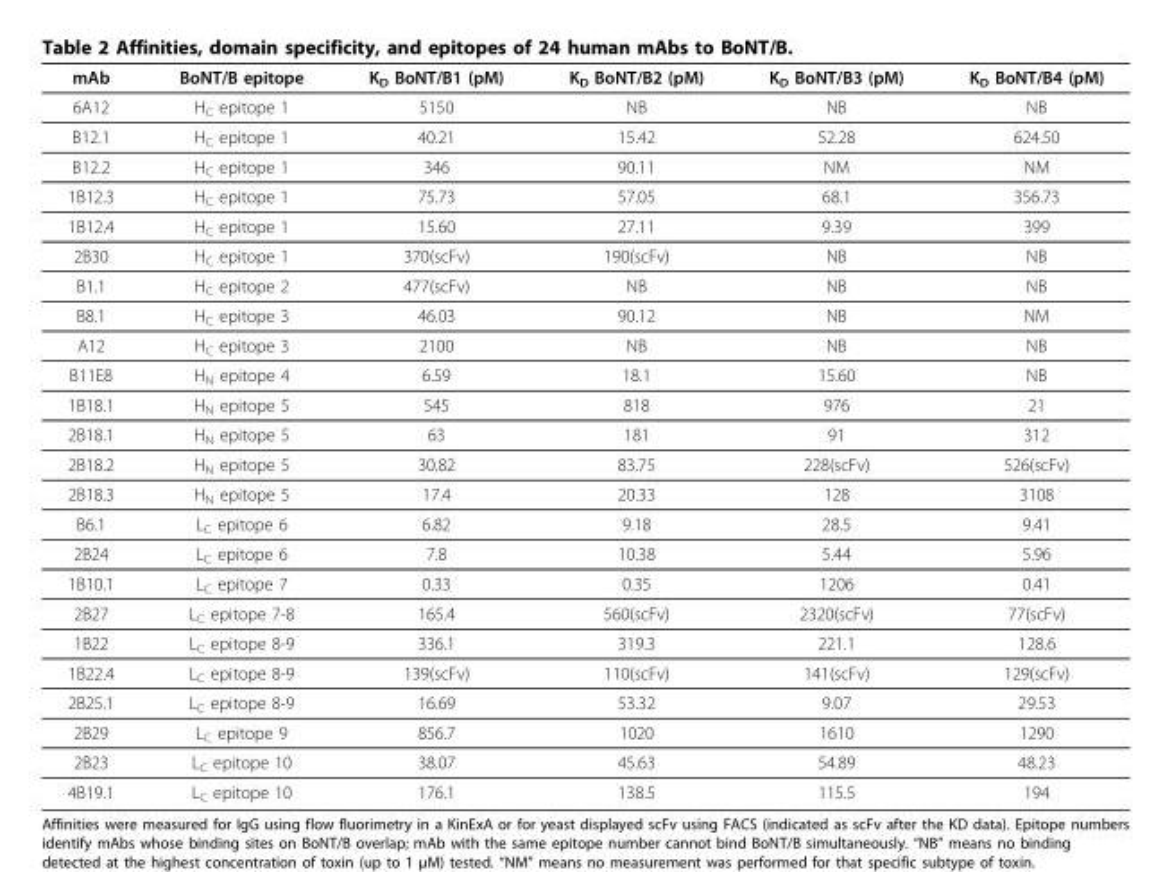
<table><thead><tr><td>mAb</td><td>BoNT/B epitope</td><td>K<sub>D</sub> BoNT/B1 (pM)</td><td>K<sub>D</sub> BoNT/B2 (pM)</td><td>K<sub>D</sub> BoNT/B3 (pM)</td><td>K<sub>D</sub> BoNT/B4 (pM)</td></tr></thead><tbody><tr><td>6A12</td><td>H<sub>C</sub> epitope 1</td><td>5150</td><td>NB</td><td>NB</td><td>NB</td></tr><tr><td>B12.1</td><td>H<sub>C</sub> epitope 1</td><td>40.21</td><td>15.42</td><td>52.28</td><td>624.50</td></tr><tr><td>B12.2</td><td>H<sub>C</sub> epitope 1</td><td>346</td><td>90.11</td><td>NM</td><td>NM</td></tr><tr><td>1B12.3</td><td>H<sub>C</sub> epitope 1</td><td>75.73</td><td>57.05</td><td>68.1</td><td>356.73</td></tr><tr><td>1B12.4</td><td>H<sub>C</sub> epitope 1</td><td>15.60</td><td>27.11</td><td>9.39</td><td>399</td></tr><tr><td>2B30</td><td>H<sub>C</sub> epitope 1</td><td>370(scFv)</td><td>190(scFv)</td><td>NB</td><td>NB</td></tr><tr><td>B1.1</td><td>H<sub>C</sub> epitope 2</td><td>477(scFv)</td><td>NB</td><td>NB</td><td>NB</td></tr><tr><td>B8.1</td><td>H<sub>C</sub> epitope 3</td><td>46.03</td><td>90.12</td><td>NB</td><td>NM</td></tr><tr><td>A12</td><td>H<sub>C</sub> epitope 3</td><td>2100</td><td>NB</td><td>NB</td><td>NB</td></tr><tr><td>B11E8</td><td>H<sub>N</sub> epitope 4</td><td>6.59</td><td>18.1</td><td>15.60</td><td>NB</td></tr><tr><td>1B18.1</td><td>H<sub>N</sub> epitope 5</td><td>545</td><td>818</td><td>976</td><td>21</td></tr><tr><td>2B18.1</td><td>H<sub>N</sub> epitope 5</td><td>63</td><td>181</td><td>91</td><td>312</td></tr><tr><td>2B18.2</td><td>H<sub>N</sub> epitope 5</td><td>30.82</td><td>83.75</td><td>228(scFv)</td><td>526(scFv)</td></tr><tr><td>2B18.3</td><td>H<sub>N</sub> epitope 5</td><td>17.4</td><td>20.33</td><td>128</td><td>3108</td></tr><tr><td>B6.1</td><td>L<sub>C</sub> epitope 6</td><td>6.82</td><td>9.18</td><td>28.5</td><td>9.41</td></tr><tr><td>2B24</td><td>L<sub>C</sub> epitope 6</td><td>7.8</td><td>10.38</td><td>5.44</td><td>5.96</td></tr><tr><td>1B10.1</td><td>L<sub>C</sub> epitope 7</td><td>0.33</td><td>0.35</td><td>1206</td><td>0.41</td></tr><tr><td>2B27</td><td>L<sub>C</sub> epitope 7-8</td><td>165.4</td><td>560(scFv)</td><td>2320(scFv)</td><td>77(scFv)</td></tr><tr><td>1B22</td><td>L<sub>C</sub> epitope 8-9</td><td>336.1</td><td>319.3</td><td>221.1</td><td>128.6</td></tr><tr><td>1B22.4</td><td>L<sub>C</sub> epitope 8-9</td><td>139(scFv)</td><td>110(scFv)</td><td>141(scFv)</td><td>129(scFv)</td></tr><tr><td>2B25.1</td><td>L<sub>C</sub> epitope 8-9</td><td>16.69</td><td>53.32</td><td>9.07</td><td>29.53</td></tr><tr><td>2B29</td><td>L<sub>C</sub> epitope 9</td><td>856.7</td><td>1020</td><td>1610</td><td>1290</td></tr><tr><td>2B23</td><td>L<sub>C</sub> epitope 10</td><td>38.07</td><td>45.63</td><td>54.89</td><td>48.23</td></tr><tr><td>4B19.1</td><td>L<sub>C</sub> epitope 10</td><td>176.1</td><td>138.5</td><td>115.5</td><td>194</td></tr></tbody></table>